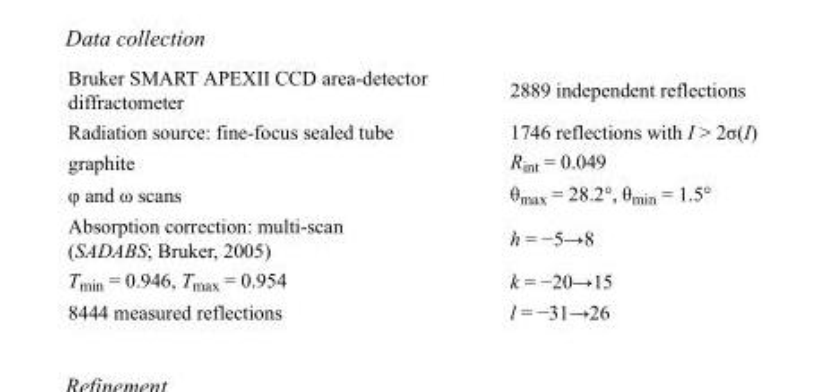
<table><tbody><tr><td>Bruker SMART APEXII CCD area-detector diffractometer</td><td>2889 independent reflections</td></tr><tr><td>Radiation source: fine-focus sealed tube</td><td>1746 reflections with I &gt; 2σ(I)</td></tr><tr><td>graphite</td><td>R<sub>int</sub> = 0.049</td></tr><tr><td>φ and ω scans</td><td>θ<sub>max</sub> = 28.2°, θ<sub>min</sub> = 1.5°</td></tr><tr><td>Absorption correction: multi-scan (SADABS; Bruker, 2005)</td><td>h = −5→8</td></tr><tr><td>T<sub>min</sub> = 0.946, T<sub>max</sub> = 0.954</td><td>k = −20→15</td></tr><tr><td>8444 measured reflections</td><td>l = −31→26</td></tr></tbody></table>